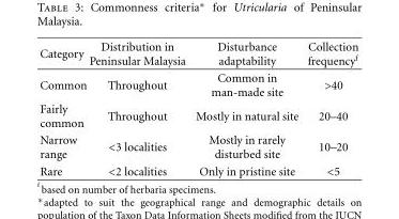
<table><thead><tr><td>Category</td><td>Distribution in Peninsular Malaysia</td><td>Disturbance adaptability</td><td>Collection frequency<sup>f</sup></td></tr></thead><tbody><tr><td>Common</td><td>Throughout</td><td>Common in man-made site</td><td>&gt;40</td></tr><tr><td>Fairly common</td><td>Throughout</td><td>Mostly in natural site</td><td>20–40</td></tr><tr><td>Narrow range</td><td>&lt;3 localities</td><td>Mostly in rarely disturbed site</td><td>10–20</td></tr><tr><td>Rare</td><td>&lt;2 localities</td><td>Only in pristine site</td><td>&lt;5</td></tr></tbody></table>